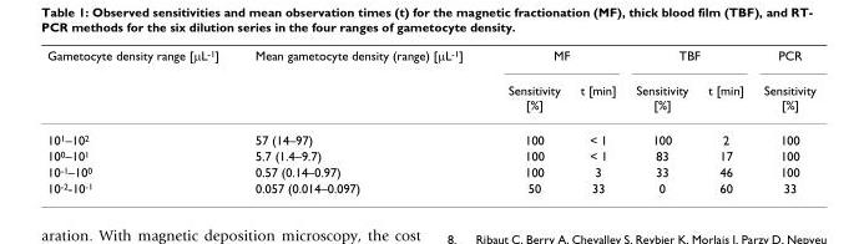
<table><thead><tr><td rowspan="2">Gametocyte density range [μL<sup>-1</sup>]</td><td rowspan="2">Mean gametocyte density (range) [μL<sup>-1</sup>]</td><td colspan="2">MF</td><td colspan="2">TBF</td><td rowspan="2">PCR Sensitivity [%]</td></tr><tr><td>Sensitivity [%]</td><td>t [min]</td><td>Sensitivity [%]</td><td>t [min]</td></tr></thead><tbody><tr><td>10<sup>1</sup>–10<sup>2</sup></td><td>57 (14–97)</td><td>100</td><td>&lt; 1</td><td>100</td><td>2</td><td>100</td></tr><tr><td>10<sup>0</sup>–10<sup>1</sup></td><td>5.7 (1.4–9.7)</td><td>100</td><td>&lt; 1</td><td>83</td><td>17</td><td>100</td></tr><tr><td>10<sup>-1</sup>–10<sup>0</sup></td><td>0.57 (0.14–0.97)</td><td>100</td><td>3</td><td>33</td><td>46</td><td>100</td></tr><tr><td>10<sup>-2</sup>-10<sup>-1</sup></td><td>0.057 (0.014–0.097)</td><td>50</td><td>33</td><td>0</td><td>60</td><td>33</td></tr></tbody></table>